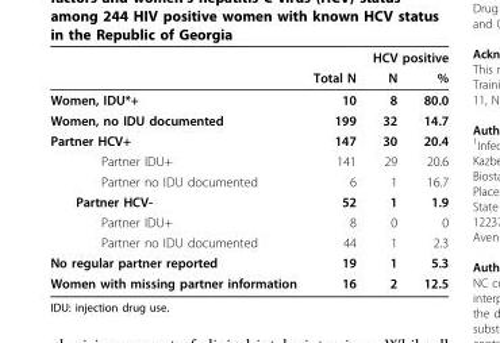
<table><thead><tr><td rowspan="2"></td><td rowspan="2">Total N</td><td colspan="2">HCV positive</td></tr><tr><td>N</td><td>%</td></tr></thead><tbody><tr><td>Women, IDU*+</td><td>10</td><td>8</td><td>80.0</td></tr><tr><td>Women, no IDU documented</td><td>199</td><td>32</td><td>14.7</td></tr><tr><td>Partner HCV+</td><td>147</td><td>30</td><td>20.4</td></tr><tr><td>Partner IDU+</td><td>141</td><td>29</td><td>20.6</td></tr><tr><td>Partner no IDU documented</td><td>6</td><td>1</td><td>16.7</td></tr><tr><td>Partner HCV-</td><td>52</td><td>1</td><td>1.9</td></tr><tr><td>Partner IDU+</td><td>8</td><td>0</td><td>0</td></tr><tr><td>Partner no IDU documented</td><td>44</td><td>1</td><td>2.3</td></tr><tr><td>No regular partner reported</td><td>19</td><td>1</td><td>5.3</td></tr><tr><td>Women with missing partner information</td><td>16</td><td>2</td><td>12.5</td></tr></tbody></table>